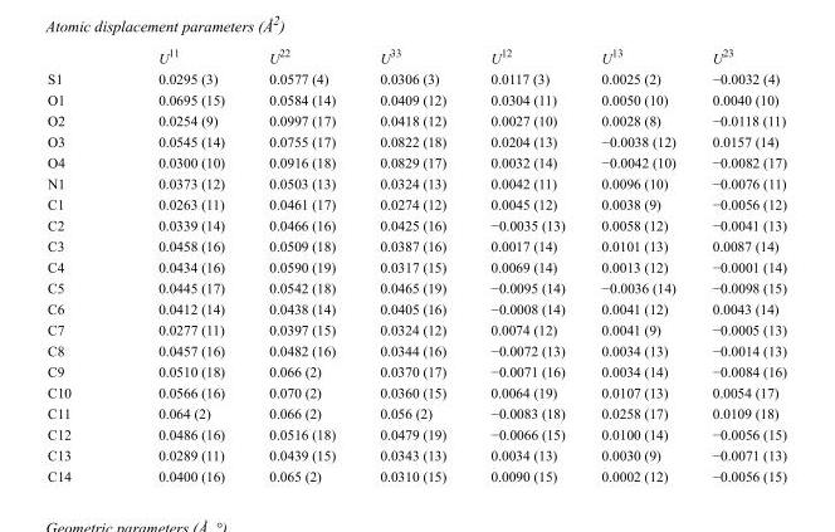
<table><thead><tr><td></td><td>U<sup>11</sup></td><td>U<sup>22</sup></td><td>U<sup>33</sup></td><td>U<sup>12</sup></td><td>U<sup>13</sup></td><td>U<sup>23</sup></td></tr></thead><tbody><tr><td>S1</td><td>0.0295 (3)</td><td>0.0577 (4)</td><td>0.0306 (3)</td><td>0.0117 (3)</td><td>0.0025 (2)</td><td>−0.0032 (4)</td></tr><tr><td>O1</td><td>0.0695 (15)</td><td>0.0584 (14)</td><td>0.0409 (12)</td><td>0.0304 (11)</td><td>0.0050 (10)</td><td>0.0040 (10)</td></tr><tr><td>O2</td><td>0.0254 (9)</td><td>0.0997 (17)</td><td>0.0418 (12)</td><td>0.0027 (10)</td><td>0.0028 (8)</td><td>−0.0118 (11)</td></tr><tr><td>O3</td><td>0.0545 (14)</td><td>0.0755 (17)</td><td>0.0822 (18)</td><td>0.0204 (13)</td><td>−0.0038 (12)</td><td>0.0157 (14)</td></tr><tr><td>O4</td><td>0.0300 (10)</td><td>0.0916 (18)</td><td>0.0829 (17)</td><td>0.0032 (14)</td><td>−0.0042 (10)</td><td>−0.0082 (17)</td></tr><tr><td>N1</td><td>0.0373 (12)</td><td>0.0503 (13)</td><td>0.0324 (13)</td><td>0.0042 (11)</td><td>0.0096 (10)</td><td>−0.0076 (11)</td></tr><tr><td>C1</td><td>0.0263 (11)</td><td>0.0461 (17)</td><td>0.0274 (12)</td><td>0.0045 (12)</td><td>0.0038 (9)</td><td>−0.0056 (12)</td></tr><tr><td>C2</td><td>0.0339 (14)</td><td>0.0466 (16)</td><td>0.0425 (16)</td><td>−0.0035 (13)</td><td>0.0058 (12)</td><td>−0.0041 (13)</td></tr><tr><td>C3</td><td>0.0458 (16)</td><td>0.0509 (18)</td><td>0.0387 (16)</td><td>0.0017 (14)</td><td>0.0101 (13)</td><td>0.0087 (14)</td></tr><tr><td>C4</td><td>0.0434 (16)</td><td>0.0590 (19)</td><td>0.0317 (15)</td><td>0.0069 (14)</td><td>0.0013 (12)</td><td>−0.0001 (14)</td></tr><tr><td>C5</td><td>0.0445 (17)</td><td>0.0542 (18)</td><td>0.0465 (19)</td><td>−0.0095 (14)</td><td>−0.0036 (14)</td><td>−0.0098 (15)</td></tr><tr><td>C6</td><td>0.0412 (14)</td><td>0.0438 (14)</td><td>0.0405 (16)</td><td>−0.0008 (14)</td><td>0.0041 (12)</td><td>0.0043 (14)</td></tr><tr><td>C7</td><td>0.0277 (11)</td><td>0.0397 (15)</td><td>0.0324 (12)</td><td>0.0074 (12)</td><td>0.0041 (9)</td><td>−0.0005 (13)</td></tr><tr><td>C8</td><td>0.0457 (16)</td><td>0.0482 (16)</td><td>0.0344 (16)</td><td>−0.0072 (13)</td><td>0.0034 (13)</td><td>−0.0014 (13)</td></tr><tr><td>C9</td><td>0.0510 (18)</td><td>0.066 (2)</td><td>0.0370 (17)</td><td>−0.0071 (16)</td><td>0.0034 (14)</td><td>−0.0084 (16)</td></tr><tr><td>C10</td><td>0.0566 (16)</td><td>0.070 (2)</td><td>0.0360 (15)</td><td>0.0064 (19)</td><td>0.0107 (13)</td><td>0.0054 (17)</td></tr><tr><td>C11</td><td>0.064 (2)</td><td>0.066 (2)</td><td>0.056 (2)</td><td>−0.0083 (18)</td><td>0.0258 (17)</td><td>0.0109 (18)</td></tr><tr><td>C12</td><td>0.0486 (16)</td><td>0.0516 (18)</td><td>0.0479 (19)</td><td>−0.0066 (15)</td><td>0.0100 (14)</td><td>−0.0056 (15)</td></tr><tr><td>C13</td><td>0.0289 (11)</td><td>0.0439 (15)</td><td>0.0343 (13)</td><td>0.0034 (13)</td><td>0.0030 (9)</td><td>−0.0071 (13)</td></tr><tr><td>C14</td><td>0.0400 (16)</td><td>0.065 (2)</td><td>0.0310 (15)</td><td>0.0090 (15)</td><td>0.0002 (12)</td><td>−0.0056 (15)</td></tr></tbody></table>